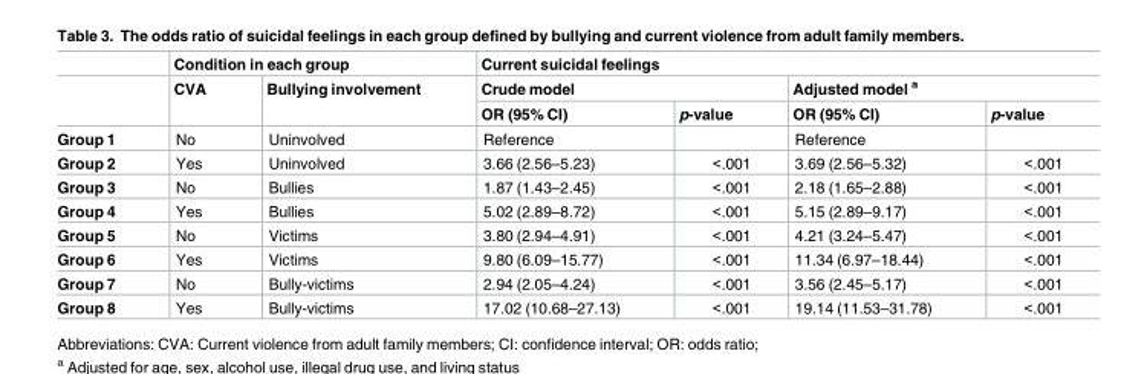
<table><thead><tr><td rowspan="3"></td><td colspan="2">Condition in each group</td><td colspan="4">Current suicidal feelings</td></tr><tr><td rowspan="2">CVA</td><td rowspan="2">Bullying involvement</td><td colspan="2">Crude model</td><td colspan="2">Adjusted model <sup>a</sup></td></tr><tr><td>OR (95% CI)</td><td>p-value</td><td>OR (95% CI)</td><td>p-value</td></tr></thead><tbody><tr><td>Group 1</td><td>No</td><td>Uninvolved</td><td>Reference</td><td></td><td>Reference</td><td></td></tr><tr><td>Group 2</td><td>Yes</td><td>Uninvolved</td><td>3.66 (2.56–5.23)</td><td>&lt;.001</td><td>3.69 (2.56–5.32)</td><td>&lt;.001</td></tr><tr><td>Group 3</td><td>No</td><td>Bullies</td><td>1.87 (1.43–2.45)</td><td>&lt;.001</td><td>2.18 (1.65–2.88)</td><td>&lt;.001</td></tr><tr><td>Group 4</td><td>Yes</td><td>Bullies</td><td>5.02 (2.89–8.72)</td><td>&lt;.001</td><td>5.15 (2.89–9.17)</td><td>&lt;.001</td></tr><tr><td>Group 5</td><td>No</td><td>Victims</td><td>3.80 (2.94–4.91)</td><td>&lt;.001</td><td>4.21 (3.24–5.47)</td><td>&lt;.001</td></tr><tr><td>Group 6</td><td>Yes</td><td>Victims</td><td>9.80 (6.09–15.77)</td><td>&lt;.001</td><td>11.34 (6.97–18.44)</td><td>&lt;.001</td></tr><tr><td>Group 7</td><td>No</td><td>Bully-victims</td><td>2.94 (2.05–4.24)</td><td>&lt;.001</td><td>3.56 (2.45–5.17)</td><td>&lt;.001</td></tr><tr><td>Group 8</td><td>Yes</td><td>Bully-victims</td><td>17.02 (10.68–27.13)</td><td>&lt;.001</td><td>19.14 (11.53–31.78)</td><td>&lt;.001</td></tr></tbody></table>